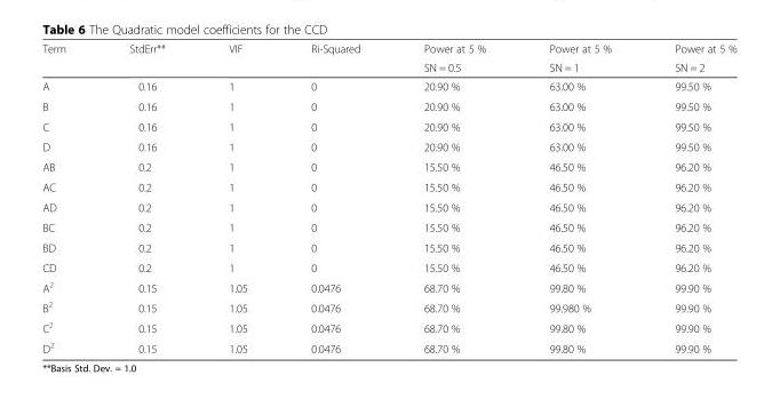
<table><thead><tr><td rowspan="2">Term</td><td rowspan="2">StdErr**</td><td rowspan="2">VIF</td><td rowspan="2">Ri-Squared</td><td rowspan="2">Power at 5 % SN = 0.5</td><td rowspan="2">Power at 5 % SN = 1</td><td rowspan="2">Power at 5 % SN = 2</td></tr><tr></tr></thead><tbody><tr><td>A</td><td>0.16</td><td>1</td><td>0</td><td>20.90 %</td><td>63.00 %</td><td>99.50 %</td></tr><tr><td>B</td><td>0.16</td><td>1</td><td>0</td><td>20.90 %</td><td>63.00 %</td><td>99.50 %</td></tr><tr><td>C</td><td>0.16</td><td>1</td><td>0</td><td>20.90 %</td><td>63.00 %</td><td>99.50 %</td></tr><tr><td>D</td><td>0.16</td><td>1</td><td>0</td><td>20.90 %</td><td>63.00 %</td><td>99.50 %</td></tr><tr><td>AB</td><td>0.2</td><td>1</td><td>0</td><td>15.50 %</td><td>46.50 %</td><td>96.20 %</td></tr><tr><td>AC</td><td>0.2</td><td>1</td><td>0</td><td>15.50 %</td><td>46.50 %</td><td>96.20 %</td></tr><tr><td>AD</td><td>0.2</td><td>1</td><td>0</td><td>15.50 %</td><td>46.50 %</td><td>96.20 %</td></tr><tr><td>BC</td><td>0.2</td><td>1</td><td>0</td><td>15.50 %</td><td>46.50 %</td><td>96.20 %</td></tr><tr><td>BD</td><td>0.2</td><td>1</td><td>0</td><td>15.50 %</td><td>46.50 %</td><td>96.20 %</td></tr><tr><td>CD</td><td>0.2</td><td>1</td><td>0</td><td>15.50 %</td><td>46.50 %</td><td>96.20 %</td></tr><tr><td>A<sup>2</sup></td><td>0.15</td><td>1.05</td><td>0.0476</td><td>68.70 %</td><td>99.80 %</td><td>99.90 %</td></tr><tr><td>B<sup>2</sup></td><td>0.15</td><td>1.05</td><td>0.0476</td><td>68.70 %</td><td>99.980 %</td><td>99.90 %</td></tr><tr><td>C<sup>2</sup></td><td>0.15</td><td>1.05</td><td>0.0476</td><td>68.70 %</td><td>99.80 %</td><td>99.90 %</td></tr><tr><td>D<sup>2</sup></td><td>0.15</td><td>1.05</td><td>0.0476</td><td>68.70 %</td><td>99.80 %</td><td>99.90 %</td></tr></tbody></table>